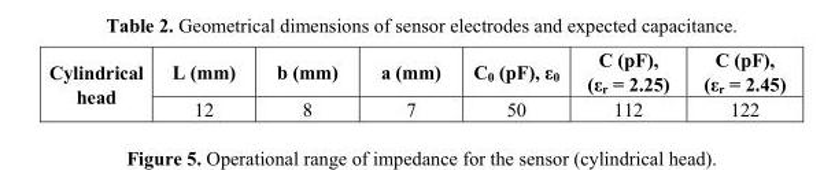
<table><tbody><tr><td rowspan="2">Cylindrical head</td><td>L (mm)</td><td>b (mm)</td><td>a (mm)</td><td>C0 (pF), ε0</td><td>C (pF), (εr = 2.25)</td><td>C (pF), (εr = 2.45)</td></tr><tr><td>12</td><td>8</td><td>7</td><td>50</td><td>112</td><td>122</td></tr></tbody></table>